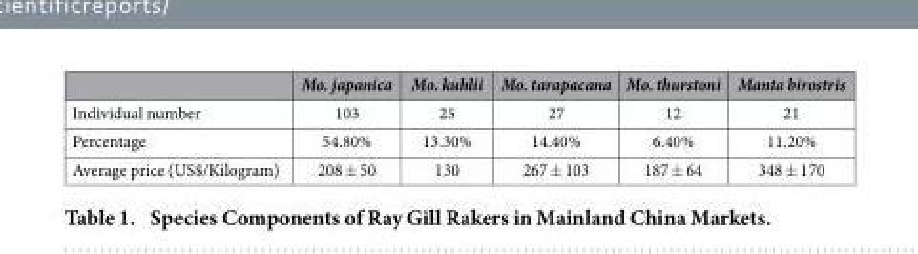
<table><thead><tr><td></td><td>Mo. japanica</td><td>Mo. kuhlii</td><td>Mo. tarapacana</td><td>Mo. thurstoni</td><td>Manta birostris</td></tr></thead><tbody><tr><td>Individual number</td><td>103</td><td>25</td><td>27</td><td>12</td><td>21</td></tr><tr><td>Percentage</td><td>54.80%</td><td>13.30%</td><td>14.40%</td><td>6.40%</td><td>11.20%</td></tr><tr><td>Average price (US$/Kilogram)</td><td>208 ± 50</td><td>130</td><td>267 ± 103</td><td>187 ± 64</td><td>348 ± 170</td></tr></tbody></table>